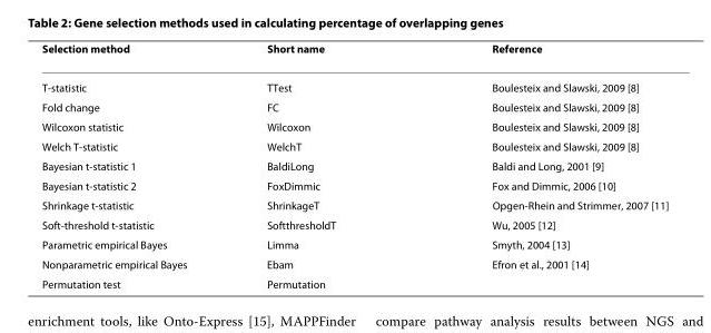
<table><thead><tr><td>Selection method</td><td>Short name</td><td>Reference</td></tr></thead><tbody><tr><td>T-statistic</td><td>TTest</td><td>Boulesteix and Slawski, 2009 [8]</td></tr><tr><td>Fold change</td><td>FC</td><td>Boulesteix and Slawski, 2009 [8]</td></tr><tr><td>Wilcoxon statistic</td><td>Wilcoxon</td><td>Boulesteix and Slawski, 2009 [8]</td></tr><tr><td>Welch T-statistic</td><td>WelchT</td><td>Boulesteix and Slawski, 2009 [8]</td></tr><tr><td>Bayesian t-statistic 1</td><td>BaldiLong</td><td>Baldi and Long, 2001 [9]</td></tr><tr><td>Bayesian t-statistic 2</td><td>FoxDimmic</td><td>Fox and Dimmic, 2006 [10]</td></tr><tr><td>Shrinkage t-statistic</td><td>ShrinkageT</td><td>Opgen-Rhein and Strimmer, 2007 [11]</td></tr><tr><td>Soft-threshold t-statistic</td><td>SoftthresholdT</td><td>Wu, 2005 [12]</td></tr><tr><td>Parametric empirical Bayes</td><td>Limma</td><td>Smyth, 2004 [13]</td></tr><tr><td>Nonparametric empirical Bayes</td><td>Ebam</td><td>Efron et al., 2001 [14]</td></tr><tr><td>Permutation test</td><td>Permutation</td><td></td></tr></tbody></table>